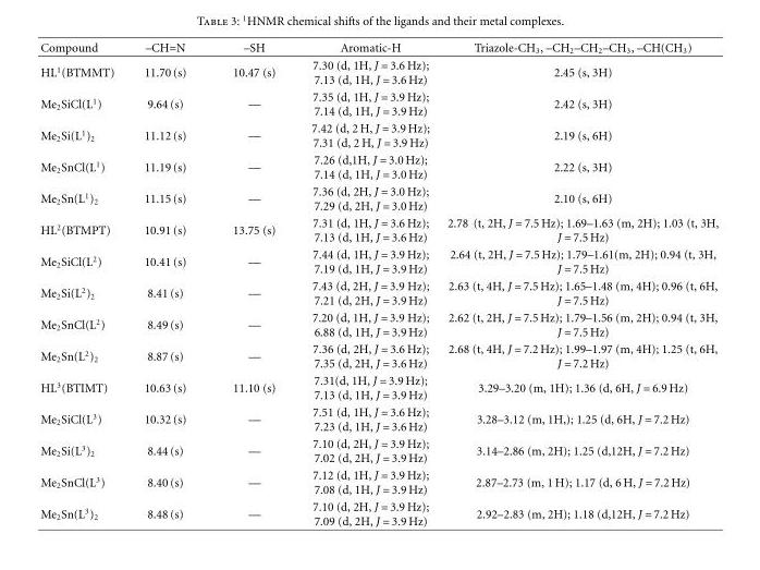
<table><thead><tr><td>Compound</td><td>–CH=N</td><td>–SH</td><td>Aromatic-H</td><td>Triazole-CH<sub>3</sub>, –CH<sub>2</sub>–CH<sub>2</sub>–CH<sub>3</sub>, –CH(CH<sub>3</sub>)</td></tr></thead><tbody><tr><td>HL<sup>1</sup>(BTMMT)</td><td>11.70 (s)</td><td>10.47 (s)</td><td>7.30 (d, 1H, J = 3.6 Hz); 7.13 (d, 1H, J = 3.6 Hz)</td><td>2.45 (s, 3H)</td></tr><tr><td>Me<sub>2</sub>SiCl(L<sup>1</sup>)</td><td>9.64 (s)</td><td>—</td><td>7.35 (d, 1H, J = 3.9 Hz); 7.14 (d, 1H, J = 3.9 Hz)</td><td>2.42 (s, 3H)</td></tr><tr><td>Me<sub>2</sub>Si(L<sup>1</sup>)<sub>2</sub></td><td>11.12 (s)</td><td>—</td><td>7.42 (d, 2 H, J = 3.9 Hz); 7.31 (d, 2 H, J = 3.9 Hz)</td><td>2.19 (s, 6H)</td></tr><tr><td>Me<sub>2</sub>SnCl(L<sup>1</sup>)</td><td>11.19 (s)</td><td>—</td><td>7.26 (d,1H, J = 3.0 Hz); 7.14 (d, 1H, J = 3.0 Hz)</td><td>2.22 (s, 3H)</td></tr><tr><td>Me<sub>2</sub>Sn(L<sup>1</sup>)<sub>2</sub></td><td>11.15 (s)</td><td>—</td><td>7.36 (d, 2H, J = 3.0 Hz); 7.29 (d, 2H, J = 3.0 Hz)</td><td>2.10 (s, 6H)</td></tr><tr><td>HL<sup>2</sup>(BTMPT)</td><td>10.91 (s)</td><td>13.75 (s)</td><td>7.31 (d, 1H, J = 3.6 Hz); 7.13 (d, 1H, J = 3.6 Hz)</td><td>2.78 (t, 2H, J = 7.5 Hz); 1.69–1.63 (m, 2H); 1.03 (t, 3H, J = 7.5 Hz)</td></tr><tr><td>Me<sub>2</sub>SiCl(L<sup>2</sup>)</td><td>10.41 (s)</td><td>—</td><td>7.44 (d, 1H, J = 3.9 Hz); 7.19 (d, 1H, J = 3.9 Hz)</td><td>2.64 (t, 2H, J = 7.5 Hz); 1.79–1.61(m, 2H); 0.94 (t, 3H, J = 7.5 Hz)</td></tr><tr><td>Me<sub>2</sub>Si(L<sup>2</sup>)<sub>2</sub></td><td>8.41 (s)</td><td>—</td><td>7.43 (d, 2H, J = 3.9 Hz); 7.21 (d, 2H, J = 3.9 Hz)</td><td>2.63 (t, 4H, J = 7.5 Hz); 1.65–1.48 (m, 4H); 0.96 (t, 6H, J = 7.5 Hz)</td></tr><tr><td>Me<sub>2</sub>SnCl(L<sup>2</sup>)</td><td>8.49 (s)</td><td>—</td><td>7.20 (d, 1H, J = 3.9 Hz); 6.88 (d, 1H, J = 3.9 Hz)</td><td>2.62 (t, 2H, J = 7.5 Hz); 1.79–1.56 (m, 2H); 0.94 (t, 3H, J = 7.5 Hz)</td></tr><tr><td>Me<sub>2</sub>Sn(L<sup>2</sup>)<sub>2</sub></td><td>8.87 (s)</td><td>—</td><td>7.36 (d, 2H, J = 3.6 Hz); 7.35 (d, 2H, J = 3.6 Hz)</td><td>2.68 (t, 4H, J = 7.2 Hz); 1.99–1.97 (m, 4H); 1.25 (t, 6H, J = 7.2 Hz)</td></tr><tr><td>HL<sup>3</sup>(BTIMT)</td><td>10.63 (s)</td><td>11.10 (s)</td><td>7.31(d, 1H, J = 3.9 Hz); 7.13 (d, 1H, J = 3.9 Hz)</td><td>3.29–3.20 (m, 1H); 1.36 (d, 6H, J = 6.9 Hz)</td></tr><tr><td>Me<sub>2</sub>SiCl(L<sup>3</sup>)</td><td>10.32 (s)</td><td>—</td><td>7.51 (d, 1H, J = 3.6 Hz); 7.23 (d, 1H, J = 3.6 Hz)</td><td>3.28–3.12 (m, 1H,); 1.25 (d, 6H, J = 7.2 Hz)</td></tr><tr><td>Me<sub>2</sub>Si(L<sup>3</sup>)<sub>2</sub></td><td>8.44 (s)</td><td>—</td><td>7.10 (d, 2H, J = 3.9 Hz); 7.02 (d, 2H, J = 3.9 Hz)</td><td>3.14–2.86 (m, 2H); 1.25 (d,12H, J = 7.2 Hz)</td></tr><tr><td>Me<sub>2</sub>SnCl(L<sup>3</sup>)</td><td>8.40 (s)</td><td>—</td><td>7.12 (d, 1H, J = 3.9 Hz); 7.08 (d, 1H, J = 3.9 Hz)</td><td>2.87–2.73 (m, 1 H); 1.17 (d, 6 H, J = 7.2 Hz)</td></tr><tr><td>Me<sub>2</sub>Sn(L<sup>3</sup>)<sub>2</sub></td><td>8.48 (s)</td><td>—</td><td>7.10 (d, 2H, J = 3.9 Hz); 7.09 (d, 2H, J = 3.9 Hz)</td><td>2.92–2.83 (m, 2H); 1.18 (d,12H, J = 7.2 Hz)</td></tr></tbody></table>